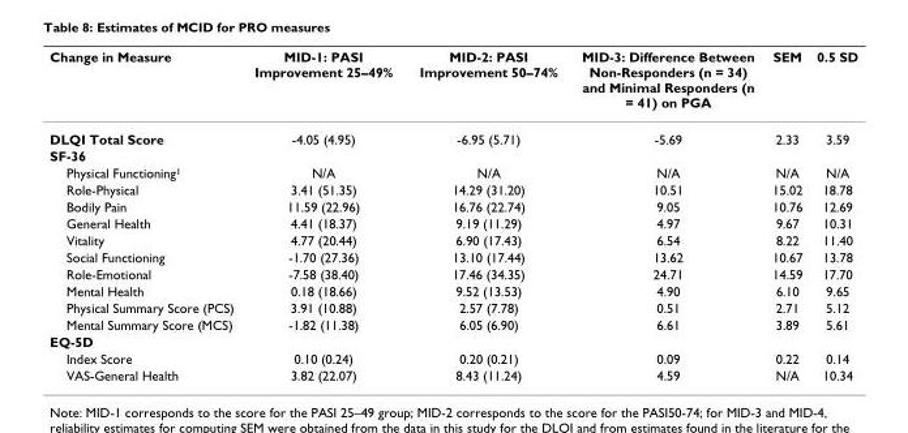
<table><thead><tr><td>Change in Measure</td><td>MID-1: PASI Improvement 25–49%</td><td>MID-2: PASI Improvement 50–74%</td><td>MID-3: Difference Between Non-Responders (n = 34) and Minimal Responders (n = 41) on PGA</td><td>SEM</td><td>0.5 SD</td></tr></thead><tbody><tr><td>DLQI Total Score</td><td>-4.05 (4.95)</td><td>-6.95 (5.71)</td><td>-5.69</td><td>2.33</td><td>3.59</td></tr><tr><td colspan="6">SF-36</td></tr><tr><td>Physical Functioning<sup>1</sup></td><td>N/A</td><td>N/A</td><td>N/A</td><td>N/A</td><td>N/A</td></tr><tr><td>Role-Physical</td><td>3.41 (51.35)</td><td>14.29 (31.20)</td><td>10.51</td><td>15.02</td><td>18.78</td></tr><tr><td>Bodily Pain</td><td>11.59 (22.96)</td><td>16.76 (22.74)</td><td>9.05</td><td>10.76</td><td>12.69</td></tr><tr><td>General Health</td><td>4.41 (18.37)</td><td>9.19 (11.29)</td><td>4.97</td><td>9.67</td><td>10.31</td></tr><tr><td>Vitality</td><td>4.77 (20.44)</td><td>6.90 (17.43)</td><td>6.54</td><td>8.22</td><td>11.40</td></tr><tr><td>Social Functioning</td><td>-1.70 (27.36)</td><td>13.10 (17.44)</td><td>13.62</td><td>10.67</td><td>13.78</td></tr><tr><td>Role-Emotional</td><td>-7.58 (38.40)</td><td>17.46 (34.35)</td><td>24.71</td><td>14.59</td><td>17.70</td></tr><tr><td>Mental Health</td><td>0.18 (18.66)</td><td>9.52 (13.53)</td><td>4.90</td><td>6.10</td><td>9.65</td></tr><tr><td>Physical Summary Score (PCS)</td><td>3.91 (10.88)</td><td>2.57 (7.78)</td><td>0.51</td><td>2.71</td><td>5.12</td></tr><tr><td>Mental Summary Score (MCS)</td><td>-1.82 (11.38)</td><td>6.05 (6.90)</td><td>6.61</td><td>3.89</td><td>5.61</td></tr><tr><td colspan="6">EQ-5D</td></tr><tr><td>Index Score</td><td>0.10 (0.24)</td><td>0.20 (0.21)</td><td>0.09</td><td>0.22</td><td>0.14</td></tr><tr><td>VAS-General Health</td><td>3.82 (22.07)</td><td>8.43 (11.24)</td><td>4.59</td><td>N/A</td><td>10.34</td></tr></tbody></table>